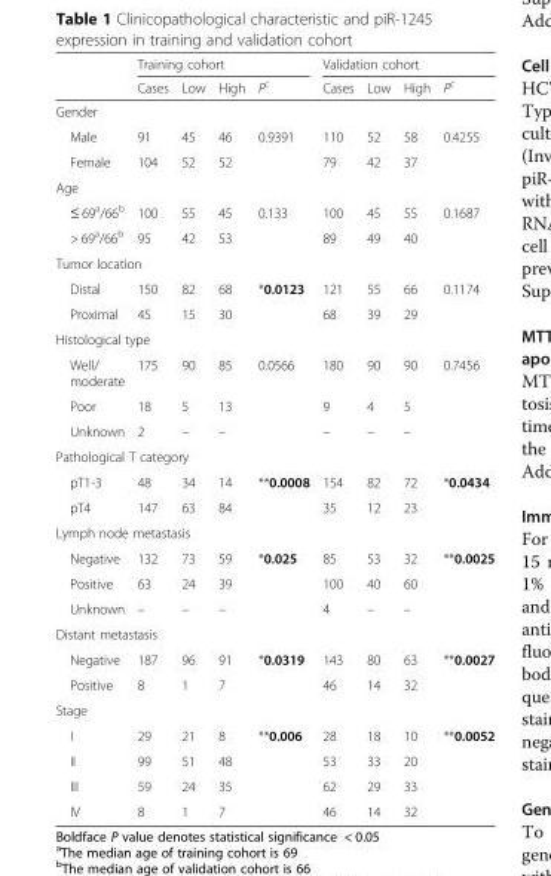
<table><thead><tr><td rowspan="2"></td><td colspan="4">Training cohort</td><td colspan="4">Validation cohort</td></tr><tr><td>Cases</td><td>Low</td><td>High</td><td>P<sup>c</sup></td><td>Cases</td><td>Low</td><td>High</td><td>P<sup>c</sup></td></tr></thead><tbody><tr><td colspan="9">Gender</td></tr><tr><td>Male</td><td>91</td><td>45</td><td>46</td><td>0.9391</td><td>110</td><td>52</td><td>58</td><td>0.4255</td></tr><tr><td>Female</td><td>104</td><td>52</td><td>52</td><td></td><td>79</td><td>42</td><td>37</td><td></td></tr><tr><td colspan="9">Age</td></tr><tr><td>≤ 69<sup>a</sup>/66<sup>b</sup></td><td>100</td><td>55</td><td>45</td><td>0.133</td><td>100</td><td>45</td><td>55</td><td>0.1687</td></tr><tr><td>&gt; 69<sup>a</sup>/66<sup>b</sup></td><td>95</td><td>42</td><td>53</td><td></td><td>89</td><td>49</td><td>40</td><td></td></tr><tr><td colspan="9">Tumor location</td></tr><tr><td>Distal</td><td>150</td><td>82</td><td>68</td><td>*0.0123</td><td>121</td><td>55</td><td>66</td><td>0.1174</td></tr><tr><td>Proximal</td><td>45</td><td>15</td><td>30</td><td></td><td>68</td><td>39</td><td>29</td><td></td></tr><tr><td colspan="9">Histological type</td></tr><tr><td>Well/ moderate</td><td>175</td><td>90</td><td>85</td><td>0.0566</td><td>180</td><td>90</td><td>90</td><td>0.7456</td></tr><tr><td>Poor</td><td>18</td><td>5</td><td>13</td><td></td><td>9</td><td>4</td><td>5</td><td></td></tr><tr><td>Unknown</td><td>2</td><td>–</td><td>–</td><td></td><td>–</td><td>–</td><td>–</td><td></td></tr><tr><td colspan="9">Pathological T category</td></tr><tr><td>pT1-3</td><td>48</td><td>34</td><td>14</td><td>**0.0008</td><td>154</td><td>82</td><td>72</td><td>*0.0434</td></tr><tr><td>pT4</td><td>147</td><td>63</td><td>84</td><td></td><td>35</td><td>12</td><td>23</td><td></td></tr><tr><td colspan="9">Lymph node metastasis</td></tr><tr><td>Negative</td><td>132</td><td>73</td><td>59</td><td>*0.025</td><td>85</td><td>53</td><td>32</td><td>**0.0025</td></tr><tr><td>Positive</td><td>63</td><td>24</td><td>39</td><td></td><td>100</td><td>40</td><td>60</td><td></td></tr><tr><td>Unknown</td><td>–</td><td>–</td><td>–</td><td></td><td>4</td><td>–</td><td>–</td><td></td></tr><tr><td colspan="9">Distant metastasis</td></tr><tr><td>Negative</td><td>187</td><td>96</td><td>91</td><td>*0.0319</td><td>143</td><td>80</td><td>63</td><td>**0.0027</td></tr><tr><td>Positive</td><td>8</td><td>1</td><td>7</td><td></td><td>46</td><td>14</td><td>32</td><td></td></tr><tr><td colspan="9">Stage</td></tr><tr><td>I</td><td>29</td><td>21</td><td>8</td><td>**0.006</td><td>28</td><td>18</td><td>10</td><td>**0.0052</td></tr><tr><td>II</td><td>99</td><td>51</td><td>48</td><td></td><td>53</td><td>33</td><td>20</td><td></td></tr><tr><td>III</td><td>59</td><td>24</td><td>35</td><td></td><td>62</td><td>29</td><td>33</td><td></td></tr><tr><td>IV</td><td>8</td><td>1</td><td>7</td><td></td><td>46</td><td>14</td><td>32</td><td></td></tr></tbody></table>